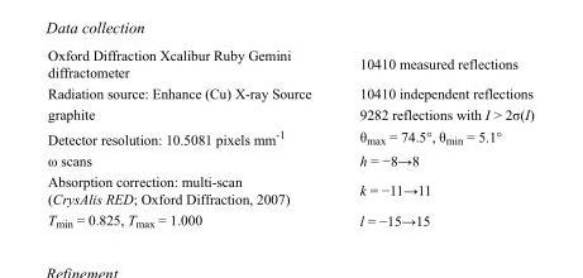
<table><tbody><tr><td>Oxford Diffraction Xcalibur Ruby Gemini diffractometer</td><td>10410 measured reflections</td></tr><tr><td>Radiation source: Enhance (Cu) X-ray Source</td><td>10410 independent reflections</td></tr><tr><td>graphite</td><td>9282 reflections with I &gt; 2σ(I)</td></tr><tr><td>Detector resolution: 10.5081 pixels mm<sup>-1</sup></td><td>θ<sub>max</sub> = 74.5°, θ<sub>min</sub> = 5.1°</td></tr><tr><td>ω scans</td><td>h = −8→8</td></tr><tr><td>Absorption correction: multi-scan (CrysAlis RED; Oxford Diffraction, 2007)</td><td>k = −11→11</td></tr><tr><td>T<sub>min</sub> = 0.825, T<sub>max</sub> = 1.000</td><td>l = −15→15</td></tr></tbody></table>